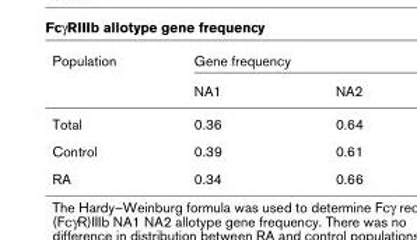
<table><thead><tr><td rowspan="2">Population</td><td colspan="2">Gene frequency</td></tr><tr><td>NA1</td><td>NA2</td></tr></thead><tbody><tr><td>Total</td><td>0.36</td><td>0.64</td></tr><tr><td>Control</td><td>0.39</td><td>0.61</td></tr><tr><td>RA</td><td>0.34</td><td>0.66</td></tr></tbody></table>